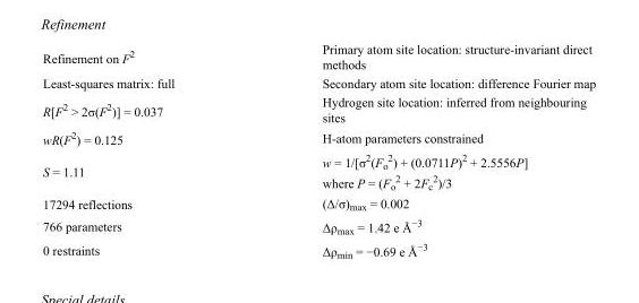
<table><tbody><tr><td>Refinement on F<sup>2</sup></td><td>Primary atom site location: structure-invariant direct methods</td></tr><tr><td>Least-squares matrix: full</td><td>Secondary atom site location: difference Fourier map</td></tr><tr><td>R[F<sup>2</sup> &gt; 2σ(F<sup>2</sup>)] = 0.037</td><td>Hydrogen site location: inferred from neighbouring sites</td></tr><tr><td>wR(F<sup>2</sup>) = 0.125</td><td>H-atom parameters constrained</td></tr><tr><td>S = 1.11</td><td>w = 1/[σ<sup>2</sup>(F<sub>o</sub> <sup>2</sup>) + (0.0711P)<sup>2</sup> + 2.5556P] where P = (F<sub>o</sub> <sup>2</sup> + 2F<sub>c</sub> <sup>2</sup>)/3</td></tr><tr><td>17294 reflections</td><td>(Δ/σ)<sub>max</sub> = 0.002</td></tr><tr><td>766 parameters</td><td>Δρ<sub>max</sub> = 1.42 e Å<sup>−3</sup></td></tr><tr><td>0 restraints</td><td>Δρ<sub>min</sub> = −0.69 e Å<sup>−3</sup></td></tr></tbody></table>